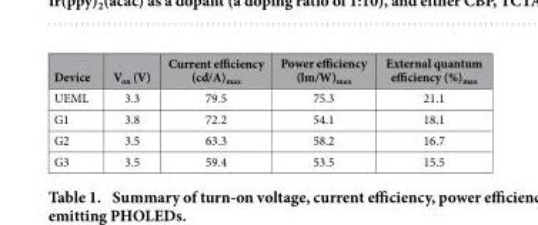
<table><thead><tr><td>Device</td><td>V<sub>on</sub> (V)</td><td>Current efficiency (cd/A)<sub>max</sub></td><td>Power efficiency (lm/W)<sub>max</sub></td><td>External quantum efficiency (%)<sub>max</sub></td></tr></thead><tbody><tr><td>UEML</td><td>3.3</td><td>79.5</td><td>75.3</td><td>21.1</td></tr><tr><td>G1</td><td>3.8</td><td>72.2</td><td>54.1</td><td>18.1</td></tr><tr><td>G2</td><td>3.5</td><td>63.3</td><td>58.2</td><td>16.7</td></tr><tr><td>G3</td><td>3.5</td><td>59.4</td><td>53.5</td><td>15.5</td></tr></tbody></table>